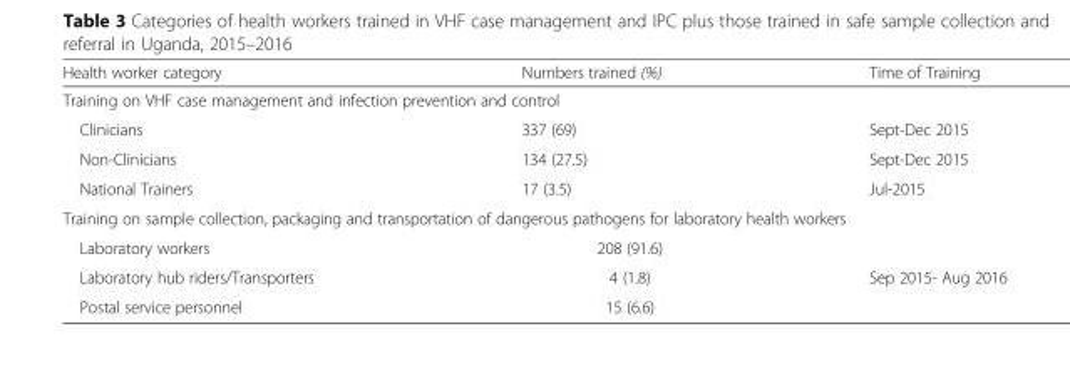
<table><thead><tr><td>Health worker category</td><td>Numbers trained (%)</td><td>Time of Training</td></tr></thead><tbody><tr><td colspan="3">Training on VHF case management and infection prevention and control</td></tr><tr><td>Clinicians</td><td>337 (69)</td><td>Sept-Dec 2015</td></tr><tr><td>Non-Clinicians</td><td>134 (27.5)</td><td>Sept-Dec 2015</td></tr><tr><td>National Trainers</td><td>17 (3.5)</td><td>Jul-2015</td></tr><tr><td colspan="3">Training on sample collection, packaging and transportation of dangerous pathogens for laboratory health workers</td></tr><tr><td>Laboratory workers</td><td>208 (91.6)</td><td></td></tr><tr><td>Laboratory hub riders/Transporters</td><td>4 (1.8)</td><td>Sep 2015- Aug 2016</td></tr><tr><td>Postal service personnel</td><td>15 (6.6)</td><td></td></tr></tbody></table>